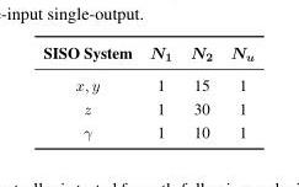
<table><thead><tr><td>SISO System</td><td>N<sub>1</sub></td><td>N<sub>2</sub></td><td>N<sub>u</sub></td></tr></thead><tbody><tr><td>x, y</td><td>1</td><td>15</td><td>1</td></tr><tr><td>z</td><td>1</td><td>30</td><td>1</td></tr><tr><td>γ</td><td>1</td><td>10</td><td>1</td></tr></tbody></table>